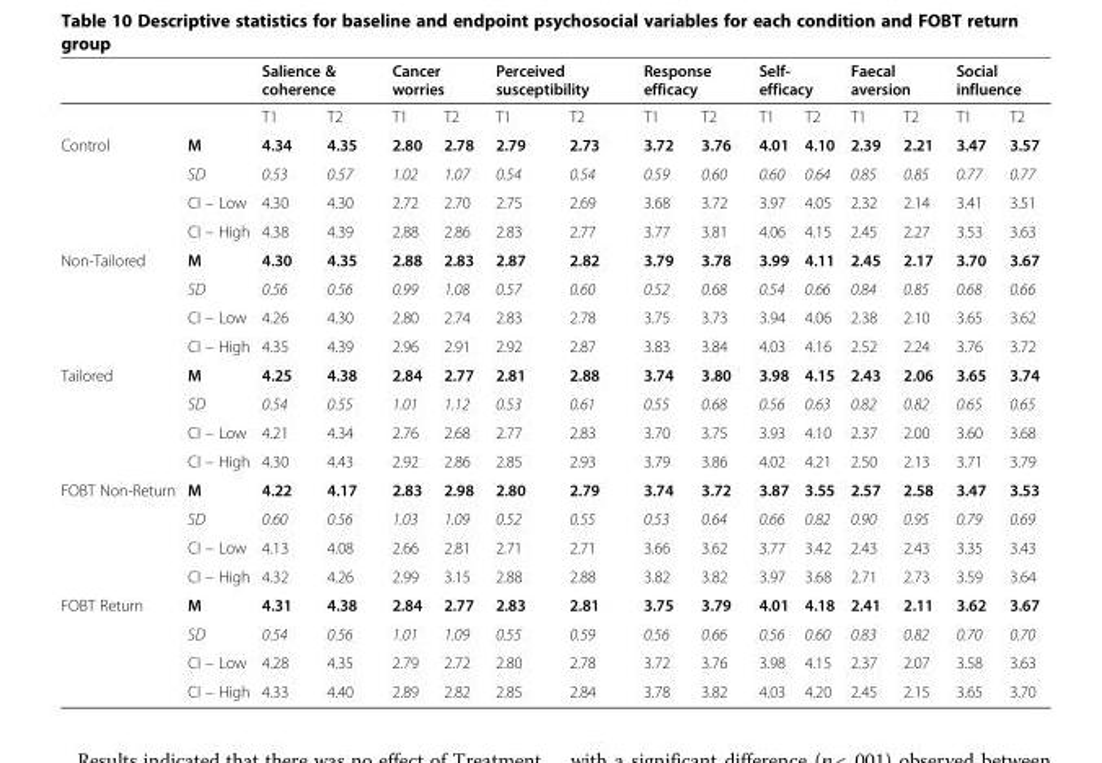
<table><thead><tr><td></td><td></td><td colspan="2">Salience &amp; coherence</td><td colspan="2">Cancer worries</td><td colspan="2">Perceived susceptibility</td><td colspan="2">Response efficacy</td><td colspan="2">Self- efficacy</td><td colspan="2">Faecal aversion</td><td colspan="2">Social influence</td></tr><tr><td colspan="2"></td><td>T1</td><td>T2</td><td>T1</td><td>T2</td><td>T1</td><td>T2</td><td>T1</td><td>T2</td><td>T1</td><td>T2</td><td>T1</td><td>T2</td><td>T1</td><td>T2</td></tr></thead><tbody><tr><td rowspan="4">Control</td><td>M</td><td>4.34</td><td>4.35</td><td>2.80</td><td>2.78</td><td>2.79</td><td>2.73</td><td>3.72</td><td>3.76</td><td>4.01</td><td>4.10</td><td>2.39</td><td>2.21</td><td>3.47</td><td>3.57</td></tr><tr><td>SD</td><td>0.53</td><td>0.57</td><td>1.02</td><td>1.07</td><td>0.54</td><td>0.54</td><td>0.59</td><td>0.60</td><td>0.60</td><td>0.64</td><td>0.85</td><td>0.85</td><td>0.77</td><td>0.77</td></tr><tr><td>CI – Low</td><td>4.30</td><td>4.30</td><td>2.72</td><td>2.70</td><td>2.75</td><td>2.69</td><td>3.68</td><td>3.72</td><td>3.97</td><td>4.05</td><td>2.32</td><td>2.14</td><td>3.41</td><td>3.51</td></tr><tr><td>CI – High</td><td>4.38</td><td>4.39</td><td>2.88</td><td>2.86</td><td>2.83</td><td>2.77</td><td>3.77</td><td>3.81</td><td>4.06</td><td>4.15</td><td>2.45</td><td>2.27</td><td>3.53</td><td>3.63</td></tr><tr><td rowspan="4">Non-Tailored</td><td>M</td><td>4.30</td><td>4.35</td><td>2.88</td><td>2.83</td><td>2.87</td><td>2.82</td><td>3.79</td><td>3.78</td><td>3.99</td><td>4.11</td><td>2.45</td><td>2.17</td><td>3.70</td><td>3.67</td></tr><tr><td>SD</td><td>0.56</td><td>0.56</td><td>0.99</td><td>1.08</td><td>0.57</td><td>0.60</td><td>0.52</td><td>0.68</td><td>0.54</td><td>0.66</td><td>0.84</td><td>0.85</td><td>0.68</td><td>0.66</td></tr><tr><td>CI – Low</td><td>4.26</td><td>4.30</td><td>2.80</td><td>2.74</td><td>2.83</td><td>2.78</td><td>3.75</td><td>3.73</td><td>3.94</td><td>4.06</td><td>2.38</td><td>2.10</td><td>3.65</td><td>3.62</td></tr><tr><td>CI – High</td><td>4.35</td><td>4.39</td><td>2.96</td><td>2.91</td><td>2.92</td><td>2.87</td><td>3.83</td><td>3.84</td><td>4.03</td><td>4.16</td><td>2.52</td><td>2.24</td><td>3.76</td><td>3.72</td></tr><tr><td rowspan="4">Tailored</td><td>M</td><td>4.25</td><td>4.38</td><td>2.84</td><td>2.77</td><td>2.81</td><td>2.88</td><td>3.74</td><td>3.80</td><td>3.98</td><td>4.15</td><td>2.43</td><td>2.06</td><td>3.65</td><td>3.74</td></tr><tr><td>SD</td><td>0.54</td><td>0.55</td><td>1.01</td><td>1.12</td><td>0.53</td><td>0.61</td><td>0.55</td><td>0.68</td><td>0.56</td><td>0.63</td><td>0.82</td><td>0.82</td><td>0.65</td><td>0.65</td></tr><tr><td>CI – Low</td><td>4.21</td><td>4.34</td><td>2.76</td><td>2.68</td><td>2.77</td><td>2.83</td><td>3.70</td><td>3.75</td><td>3.93</td><td>4.10</td><td>2.37</td><td>2.00</td><td>3.60</td><td>3.68</td></tr><tr><td>CI – High</td><td>4.30</td><td>4.43</td><td>2.92</td><td>2.86</td><td>2.85</td><td>2.93</td><td>3.79</td><td>3.86</td><td>4.02</td><td>4.21</td><td>2.50</td><td>2.13</td><td>3.71</td><td>3.79</td></tr><tr><td rowspan="4">FOBT Non-Return</td><td>M</td><td>4.22</td><td>4.17</td><td>2.83</td><td>2.98</td><td>2.80</td><td>2.79</td><td>3.74</td><td>3.72</td><td>3.87</td><td>3.55</td><td>2.57</td><td>2.58</td><td>3.47</td><td>3.53</td></tr><tr><td>SD</td><td>0.60</td><td>0.56</td><td>1.03</td><td>1.09</td><td>0.52</td><td>0.55</td><td>0.53</td><td>0.64</td><td>0.66</td><td>0.82</td><td>0.90</td><td>0.95</td><td>0.79</td><td>0.69</td></tr><tr><td>CI – Low</td><td>4.13</td><td>4.08</td><td>2.66</td><td>2.81</td><td>2.71</td><td>2.71</td><td>3.66</td><td>3.62</td><td>3.77</td><td>3.42</td><td>2.43</td><td>2.43</td><td>3.35</td><td>3.43</td></tr><tr><td>CI – High</td><td>4.32</td><td>4.26</td><td>2.99</td><td>3.15</td><td>2.88</td><td>2.88</td><td>3.82</td><td>3.82</td><td>3.97</td><td>3.68</td><td>2.71</td><td>2.73</td><td>3.59</td><td>3.64</td></tr><tr><td rowspan="4">FOBT Return</td><td>M</td><td>4.31</td><td>4.38</td><td>2.84</td><td>2.77</td><td>2.83</td><td>2.81</td><td>3.75</td><td>3.79</td><td>4.01</td><td>4.18</td><td>2.41</td><td>2.11</td><td>3.62</td><td>3.67</td></tr><tr><td>SD</td><td>0.54</td><td>0.56</td><td>1.01</td><td>1.09</td><td>0.55</td><td>0.59</td><td>0.56</td><td>0.66</td><td>0.56</td><td>0.60</td><td>0.83</td><td>0.82</td><td>0.70</td><td>0.70</td></tr><tr><td>CI – Low</td><td>4.28</td><td>4.35</td><td>2.79</td><td>2.72</td><td>2.80</td><td>2.78</td><td>3.72</td><td>3.76</td><td>3.98</td><td>4.15</td><td>2.37</td><td>2.07</td><td>3.58</td><td>3.63</td></tr><tr><td>CI – High</td><td>4.33</td><td>4.40</td><td>2.89</td><td>2.82</td><td>2.85</td><td>2.84</td><td>3.78</td><td>3.82</td><td>4.03</td><td>4.20</td><td>2.45</td><td>2.15</td><td>3.65</td><td>3.70</td></tr></tbody></table>